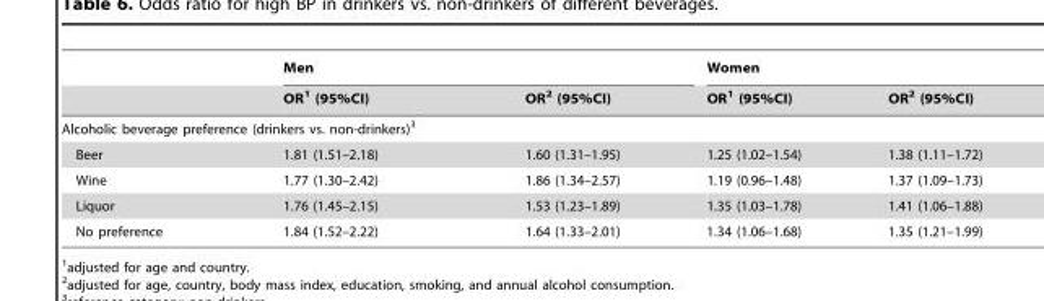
<table><thead><tr><td rowspan="2"></td><td colspan="2">Men</td><td colspan="2">Women</td></tr><tr><td>OR<sup>1</sup> (95%CI)</td><td>OR<sup>2</sup> (95%CI)</td><td>OR<sup>1</sup> (95%CI)</td><td>OR<sup>2</sup> (95%CI)</td></tr></thead><tbody><tr><td colspan="5">Alcoholic beverage preference (drinkers vs. non-drinkers)<sup>3</sup></td></tr><tr><td>Beer</td><td>1.81 (1.51–2.18)</td><td>1.60 (1.31–1.95)</td><td>1.25 (1.02–1.54)</td><td>1.38 (1.11–1.72)</td></tr><tr><td>Wine</td><td>1.77 (1.30–2.42)</td><td>1.86 (1.34–2.57)</td><td>1.19 (0.96–1.48)</td><td>1.37 (1.09–1.73)</td></tr><tr><td>Liquor</td><td>1.76 (1.45–2.15)</td><td>1.53 (1.23–1.89)</td><td>1.35 (1.03–1.78)</td><td>1.41 (1.06–1.88)</td></tr><tr><td>No preference</td><td>1.84 (1.52–2.22)</td><td>1.64 (1.33–2.01)</td><td>1.34 (1.06–1.68)</td><td>1.35 (1.21–1.99)</td></tr></tbody></table>